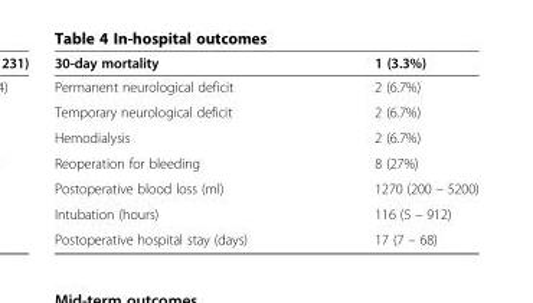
<table><thead><tr><td>30-day mortality</td><td>1 (3.3%)</td></tr></thead><tbody><tr><td>Permanent neurological deficit</td><td>2 (6.7%)</td></tr><tr><td>Temporary neurological deficit</td><td>2 (6.7%)</td></tr><tr><td>Hemodialysis</td><td>2 (6.7%)</td></tr><tr><td>Reoperation for bleeding</td><td>8 (27%)</td></tr><tr><td>Postoperative blood loss (ml)</td><td>1270 (200 – 5200)</td></tr><tr><td>Intubation (hours)</td><td>116 (5 – 912)</td></tr><tr><td>Postoperative hospital stay (days)</td><td>17 (7 – 68)</td></tr></tbody></table>